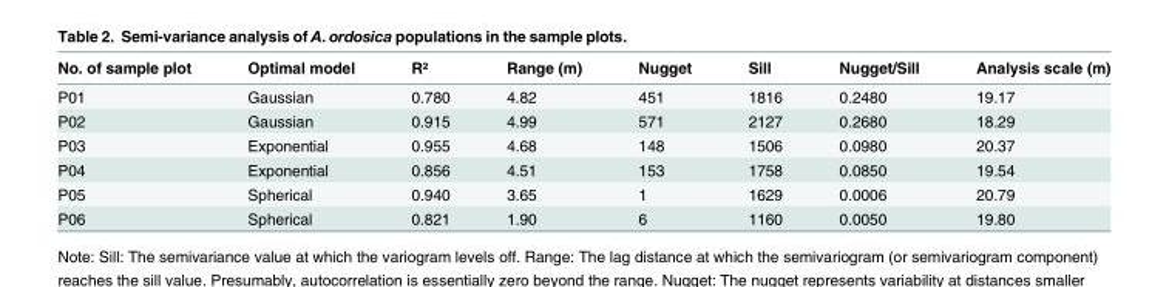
<table><thead><tr><td>No. of sample plot</td><td>Optimal model</td><td>R²</td><td>Range (m)</td><td>Nugget</td><td>Sill</td><td>Nugget/Sill</td><td>Analysis scale (m)</td></tr></thead><tbody><tr><td>P01</td><td>Gaussian</td><td>0.780</td><td>4.82</td><td>451</td><td>1816</td><td>0.2480</td><td>19.17</td></tr><tr><td>P02</td><td>Gaussian</td><td>0.915</td><td>4.99</td><td>571</td><td>2127</td><td>0.2680</td><td>18.29</td></tr><tr><td>P03</td><td>Exponential</td><td>0.955</td><td>4.68</td><td>148</td><td>1506</td><td>0.0980</td><td>20.37</td></tr><tr><td>P04</td><td>Exponential</td><td>0.856</td><td>4.51</td><td>153</td><td>1758</td><td>0.0850</td><td>19.54</td></tr><tr><td>P05</td><td>Spherical</td><td>0.940</td><td>3.65</td><td>1</td><td>1629</td><td>0.0006</td><td>20.79</td></tr><tr><td>P06</td><td>Spherical</td><td>0.821</td><td>1.90</td><td>6</td><td>1160</td><td>0.0050</td><td>19.80</td></tr></tbody></table>